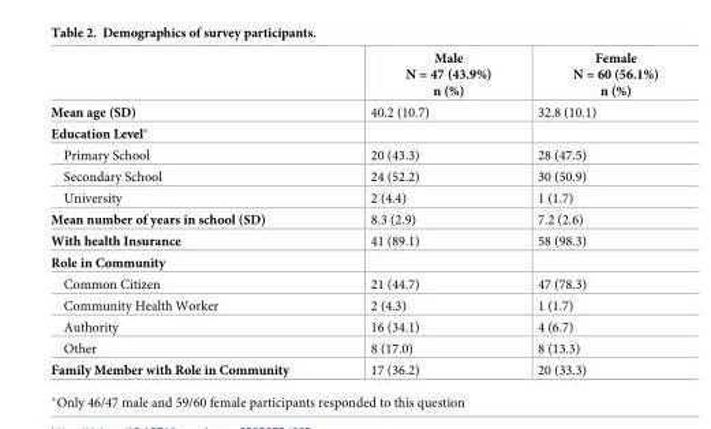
<table><thead><tr><td></td><td>Male N = 47 (43.9%) n (%)</td><td>Female N = 60 (56.1%) n (%)</td></tr></thead><tbody><tr><td>Mean age (SD)</td><td>40.2 (10.7)</td><td>32.8 (10.1)</td></tr><tr><td colspan="3">Education Level*</td></tr><tr><td>Primary School</td><td>20 (43.3)</td><td>28 (47.5)</td></tr><tr><td>Secondary School</td><td>24 (52.2)</td><td>30 (50.9)</td></tr><tr><td>University</td><td>2 (4.4)</td><td>1 (1.7)</td></tr><tr><td>Mean number of years in school (SD)</td><td>8.3 (2.9)</td><td>7.2 (2.6)</td></tr><tr><td>With health Insurance</td><td>41 (89.1)</td><td>58 (98.3)</td></tr><tr><td colspan="3">Role in Community</td></tr><tr><td>Common Citizen</td><td>21 (44.7)</td><td>47 (78.3)</td></tr><tr><td>Community Health Worker</td><td>2 (4.3)</td><td>1 (1.7)</td></tr><tr><td>Authority</td><td>16 (34.1)</td><td>4 (6.7)</td></tr><tr><td>Other</td><td>8 (17.0)</td><td>8 (13.3)</td></tr><tr><td>Family Member with Role in Community</td><td>17 (36.2)</td><td>20 (33.3)</td></tr></tbody></table>